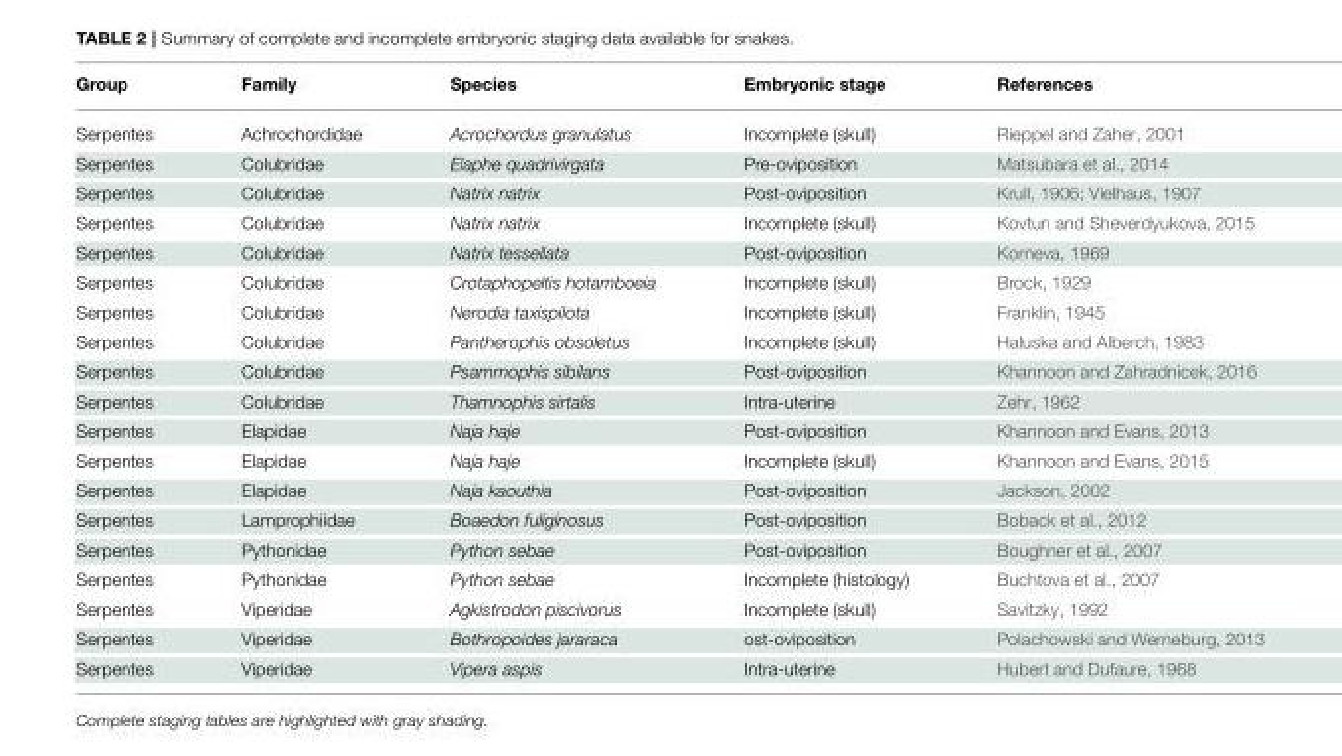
<table><thead><tr><td>Group</td><td>Family</td><td>Species</td><td>Embryonic stage</td><td>References</td></tr></thead><tbody><tr><td>Serpentes</td><td>Achrochordidae</td><td>Acrochordus granulatus</td><td>Incomplete (skull)</td><td>Rieppel and Zaher, 2001</td></tr><tr><td>Serpentes</td><td>Colubridae</td><td>Elaphe quadrivirgata</td><td>Pre-oviposition</td><td>Matsubara et al., 2014</td></tr><tr><td>Serpentes</td><td>Colubridae</td><td>Natrix natrix</td><td>Post-oviposition</td><td>Krull, 1906; Vielhaus, 1907</td></tr><tr><td>Serpentes</td><td>Colubridae</td><td>Natrix natrix</td><td>Incomplete (skull)</td><td>Kovtun and Sheverdyukova, 2015</td></tr><tr><td>Serpentes</td><td>Colubridae</td><td>Natrix tessellata</td><td>Post-oviposition</td><td>Korneva, 1969</td></tr><tr><td>Serpentes</td><td>Colubridae</td><td>Crotaphopeltis hotamboeia</td><td>Incomplete (skull)</td><td>Brock, 1929</td></tr><tr><td>Serpentes</td><td>Colubridae</td><td>Nerodia taxispilota</td><td>Incomplete (skull)</td><td>Franklin, 1945</td></tr><tr><td>Serpentes</td><td>Colubridae</td><td>Pantherophis obsoletus</td><td>Incomplete (skull)</td><td>Haluska and Alberch, 1983</td></tr><tr><td>Serpentes</td><td>Colubridae</td><td>Psammophis sibilans</td><td>Post-oviposition</td><td>Khannoon and Zahradnicek, 2016</td></tr><tr><td>Serpentes</td><td>Colubridae</td><td>Thamnophis sirtalis</td><td>Intra-uterine</td><td>Zehr, 1962</td></tr><tr><td>Serpentes</td><td>Elapidae</td><td>Naja haje</td><td>Post-oviposition</td><td>Khannoon and Evans, 2013</td></tr><tr><td>Serpentes</td><td>Elapidae</td><td>Naja haje</td><td>Incomplete (skull)</td><td>Khannoon and Evans, 2015</td></tr><tr><td>Serpentes</td><td>Elapidae</td><td>Naja kaouthia</td><td>Post-oviposition</td><td>Jackson, 2002</td></tr><tr><td>Serpentes</td><td>Lamprophiidae</td><td>Boaedon fuliginosus</td><td>Post-oviposition</td><td>Boback et al., 2012</td></tr><tr><td>Serpentes</td><td>Pythonidae</td><td>Python sebae</td><td>Post-oviposition</td><td>Boughner et al., 2007</td></tr><tr><td>Serpentes</td><td>Pythonidae</td><td>Python sebae</td><td>Incomplete (histology)</td><td>Buchtova et al., 2007</td></tr><tr><td>Serpentes</td><td>Viperidae</td><td>Agkistrodon piscivorus</td><td>Incomplete (skull)</td><td>Savitzky, 1992</td></tr><tr><td>Serpentes</td><td>Viperidae</td><td>Bothropoides jararaca</td><td>ost-oviposition</td><td>Polachowski and Werneburg, 2013</td></tr><tr><td>Serpentes</td><td>Viperidae</td><td>Vipera aspis</td><td>Intra-uterine</td><td>Hubert and Dufaure, 1968</td></tr></tbody></table>